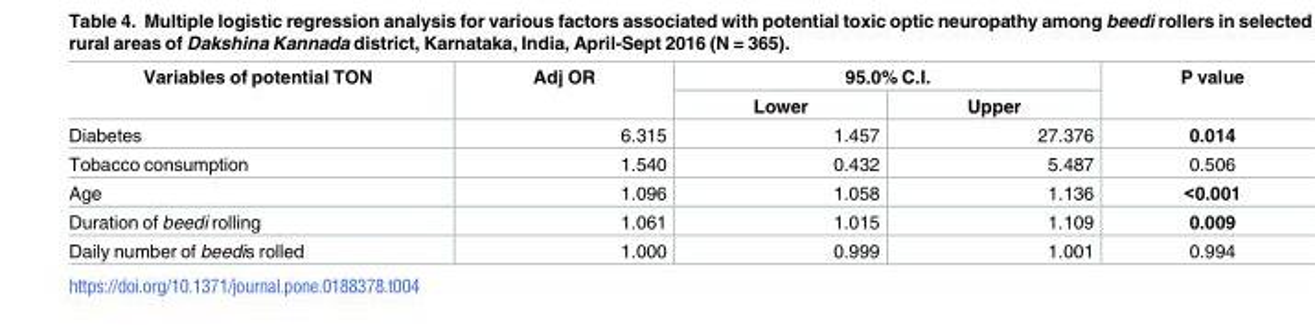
<table><thead><tr><td rowspan="2">Variables of potential TON</td><td rowspan="2">Adj OR</td><td colspan="2">95.0% C.I.</td><td rowspan="2">P value</td></tr><tr><td>Lower</td><td>Upper</td></tr></thead><tbody><tr><td>Diabetes</td><td>6.315</td><td>1.457</td><td>27.376</td><td>0.014</td></tr><tr><td>Tobacco consumption</td><td>1.540</td><td>0.432</td><td>5.487</td><td>0.506</td></tr><tr><td>Age</td><td>1.096</td><td>1.058</td><td>1.136</td><td>&lt;0.001</td></tr><tr><td>Duration of beedi rolling</td><td>1.061</td><td>1.015</td><td>1.109</td><td>0.009</td></tr><tr><td>Daily number of beedis rolled</td><td>1.000</td><td>0.999</td><td>1.001</td><td>0.994</td></tr></tbody></table>